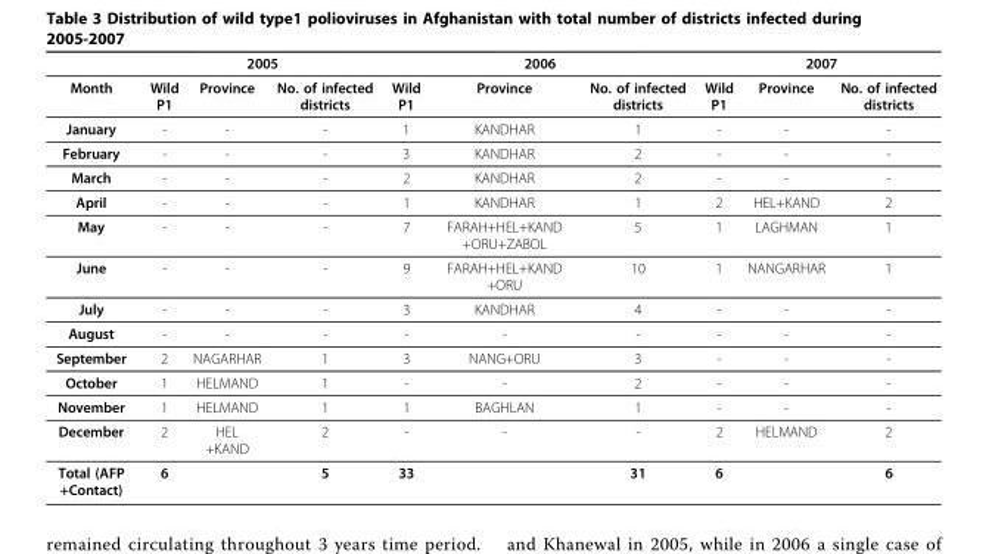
<table><thead><tr><td rowspan="2">Month</td><td colspan="3">2005</td><td colspan="3">2006</td><td colspan="3">2007</td></tr><tr><td>Wild P1</td><td>Province</td><td>No. of infected districts</td><td>Wild P1</td><td>Province</td><td>No. of infected districts</td><td>Wild P1</td><td>Province</td><td>No. of infected districts</td></tr></thead><tbody><tr><td>January</td><td>-</td><td>-</td><td>-</td><td>1</td><td>KANDHAR</td><td>1</td><td>-</td><td>-</td><td>-</td></tr><tr><td>February</td><td>-</td><td>-</td><td>-</td><td>3</td><td>KANDHAR</td><td>2</td><td>-</td><td>-</td><td>-</td></tr><tr><td>March</td><td>-</td><td>-</td><td>-</td><td>2</td><td>KANDHAR</td><td>2</td><td>-</td><td>-</td><td>-</td></tr><tr><td>April</td><td>-</td><td>-</td><td>-</td><td>1</td><td>KANDHAR</td><td>1</td><td>2</td><td>HEL+KAND</td><td>2</td></tr><tr><td>May</td><td>-</td><td>-</td><td>-</td><td>7</td><td>FARAH+HEL+KAND +ORU+ZABOL</td><td>5</td><td>1</td><td>LAGHMAN</td><td>1</td></tr><tr><td>June</td><td>-</td><td>-</td><td>-</td><td>9</td><td>FARAH+HEL+KAND +ORU</td><td>10</td><td>1</td><td>NANGARHAR</td><td>1</td></tr><tr><td>July</td><td>-</td><td>-</td><td>-</td><td>3</td><td>KANDHAR</td><td>4</td><td>-</td><td>-</td><td>-</td></tr><tr><td>August</td><td>-</td><td>-</td><td>-</td><td>-</td><td>-</td><td>-</td><td>-</td><td>-</td><td>-</td></tr><tr><td>September</td><td>2</td><td>NAGARHAR</td><td>1</td><td>3</td><td>NANG+ORU</td><td>3</td><td>-</td><td>-</td><td>-</td></tr><tr><td>October</td><td>1</td><td>HELMAND</td><td>1</td><td>-</td><td>-</td><td>2</td><td>-</td><td>-</td><td>-</td></tr><tr><td>November</td><td>1</td><td>HELMAND</td><td>1</td><td>1</td><td>BAGHLAN</td><td>1</td><td>-</td><td>-</td><td>-</td></tr><tr><td>December</td><td>2</td><td>HEL +KAND</td><td>2</td><td>-</td><td>-</td><td>-</td><td>2</td><td>HELMAND</td><td>2</td></tr><tr><td>Total (AFP +Contact)</td><td>6</td><td></td><td>5</td><td>33</td><td></td><td>31</td><td>6</td><td></td><td>6</td></tr></tbody></table>